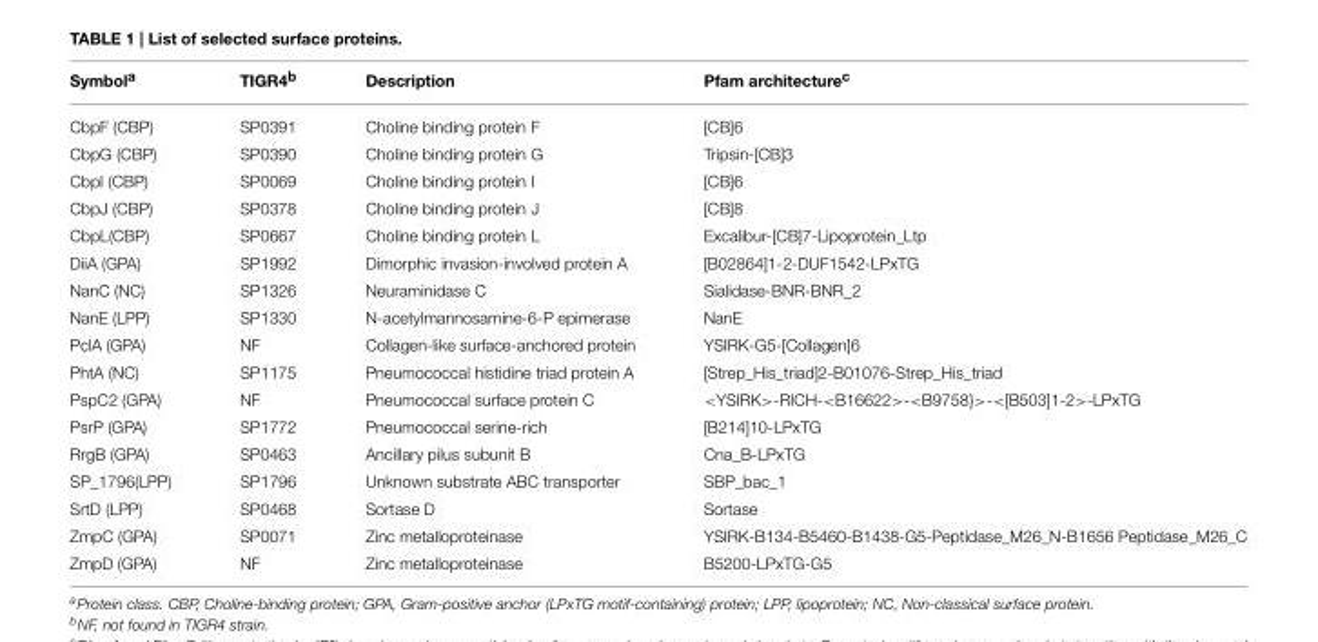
<table><thead><tr><td>Symbol<sup>a</sup></td><td>TIGR4<sup>b</sup></td><td>Description</td><td>Pfam architecture<sup>c</sup></td></tr></thead><tbody><tr><td>CbpF (CBP)</td><td>SP0391</td><td>Choline binding protein F</td><td>[CB]6</td></tr><tr><td>CbpG (CBP)</td><td>SP0390</td><td>Choline binding protein G</td><td>Tripsin-[CB]3</td></tr><tr><td>CbpI (CBP)</td><td>SP0069</td><td>Choline binding protein I</td><td>[CB]6</td></tr><tr><td>CbpJ (CBP)</td><td>SP0378</td><td>Choline binding protein J</td><td>[CB]8</td></tr><tr><td>CbpL(CBP)</td><td>SP0667</td><td>Choline binding protein L</td><td>Excalibur-[CB]7-Lipoprotein_Ltp</td></tr><tr><td>DiiA (GPA)</td><td>SP1992</td><td>Dimorphic invasion-involved protein A</td><td>[B02864]1-2-DUF1542-LPxTG</td></tr><tr><td>NanC (NC)</td><td>SP1326</td><td>Neuraminidase C</td><td>Sialidase-BNR-BNR_2</td></tr><tr><td>NanE (LPP)</td><td>SP1330</td><td>N-acetylmannosamine-6-P epimerase</td><td>NanE</td></tr><tr><td>PclA (GPA)</td><td>NF</td><td>Collagen-like surface-anchored protein</td><td>YSIRK-G5-[Collagen]6</td></tr><tr><td>PhtA (NC)</td><td>SP1175</td><td>Pneumococcal histidine triad protein A</td><td>[Strep_His_triad]2-B01076-Strep_His_triad</td></tr><tr><td>PspC2 (GPA)</td><td>NF</td><td>Pneumococcal surface protein C</td><td>&lt;YSIRK&gt;-RICH-&lt;B16622&gt;-&lt;B9758}&gt;-&lt;[B503]1-2&gt;-LPxTG</td></tr><tr><td>PsrP (GPA)</td><td>SP1772</td><td>Pneumococcal serine-rich</td><td>[B214]10-LPxTG</td></tr><tr><td>RrgB (GPA)</td><td>SP0463</td><td>Ancillary pilus subunit B</td><td>Cna_B-LPxTG</td></tr><tr><td>SP_1796(LPP)</td><td>SP1796</td><td>Unknown substrate ABC transporter</td><td>SBP_bac_1</td></tr><tr><td>SrtD (LPP)</td><td>SP0468</td><td>Sortase D</td><td>Sortase</td></tr><tr><td>ZmpC (GPA)</td><td>SP0071</td><td>Zinc metalloproteinase</td><td>YSIRK-B134-B5460-B1438-G5-Peptidase_M26_N-B1656 Peptidase_M26_C</td></tr><tr><td>ZmpD (GPA)</td><td>NF</td><td>Zinc metalloproteinase</td><td>B5200-LPxTG-G5</td></tr></tbody></table>